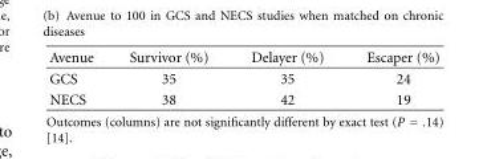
<table><thead><tr><td>Avenue</td><td>Survivor (%)</td><td>Delayer (%)</td><td>Escaper (%)</td></tr></thead><tbody><tr><td>GCS</td><td>35</td><td>35</td><td>24</td></tr><tr><td>NECS</td><td>38</td><td>42</td><td>19</td></tr></tbody></table>